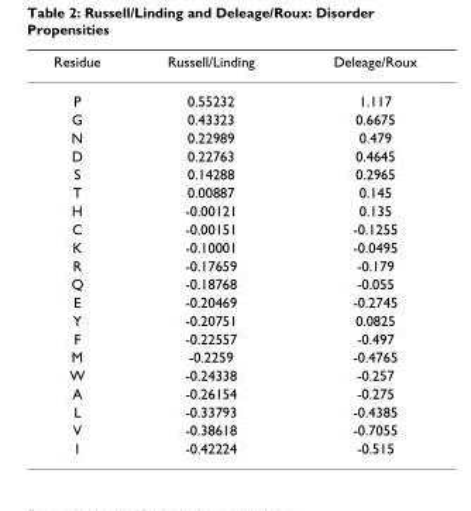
<table><thead><tr><td>Residue</td><td>Russell/Linding</td><td>Deleage/Roux</td></tr></thead><tbody><tr><td>P</td><td>0.55232</td><td>1.117</td></tr><tr><td>G</td><td>0.43323</td><td>0.6675</td></tr><tr><td>N</td><td>0.22989</td><td>0.479</td></tr><tr><td>D</td><td>0.22763</td><td>0.4645</td></tr><tr><td>S</td><td>0.14288</td><td>0.2965</td></tr><tr><td>T</td><td>0.00887</td><td>0.145</td></tr><tr><td>H</td><td>-0.00121</td><td>0.135</td></tr><tr><td>C</td><td>-0.00151</td><td>-0.1255</td></tr><tr><td>K</td><td>-0.10001</td><td>-0.0495</td></tr><tr><td>R</td><td>-0.17659</td><td>-0.179</td></tr><tr><td>Q</td><td>-0.18768</td><td>-0.055</td></tr><tr><td>E</td><td>-0.20469</td><td>-0.2745</td></tr><tr><td>Y</td><td>-0.20751</td><td>0.0825</td></tr><tr><td>F</td><td>-0.22557</td><td>-0.497</td></tr><tr><td>M</td><td>-0.2259</td><td>-0.4765</td></tr><tr><td>W</td><td>-0.24338</td><td>-0.257</td></tr><tr><td>A</td><td>-0.26154</td><td>-0.275</td></tr><tr><td>L</td><td>-0.33793</td><td>-0.4385</td></tr><tr><td>V</td><td>-0.38618</td><td>-0.7055</td></tr><tr><td>I</td><td>-0.42224</td><td>-0.515</td></tr></tbody></table>